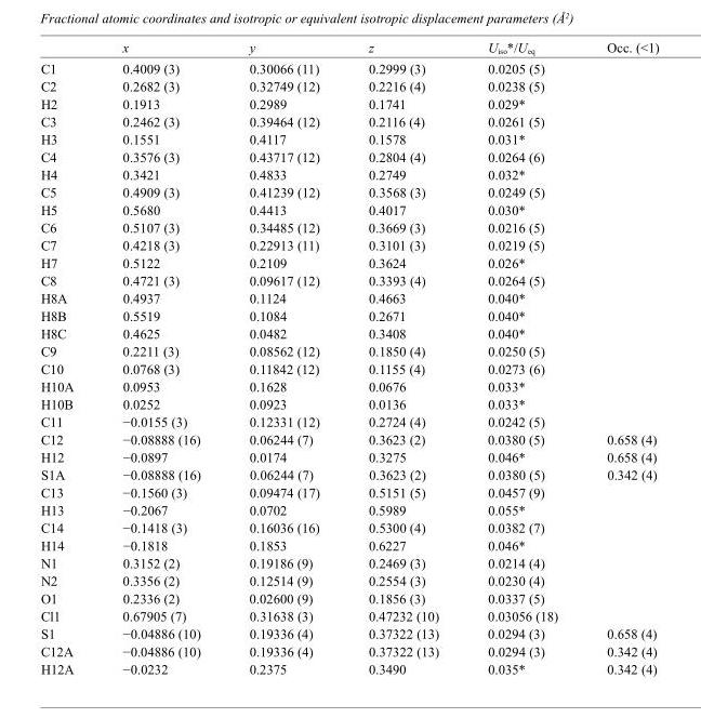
<table><thead><tr><td></td><td>x</td><td>y</td><td>z</td><td>U<sub>iso</sub>*/U<sub>eq</sub></td><td>Occ. (&lt;1)</td></tr></thead><tbody><tr><td>C1</td><td>0.4009 (3)</td><td>0.30066 (11)</td><td>0.2999 (3)</td><td>0.0205 (5)</td><td></td></tr><tr><td>C2</td><td>0.2682 (3)</td><td>0.32749 (12)</td><td>0.2216 (4)</td><td>0.0238 (5)</td><td></td></tr><tr><td>H2</td><td>0.1913</td><td>0.2989</td><td>0.1741</td><td>0.029*</td><td></td></tr><tr><td>C3</td><td>0.2462 (3)</td><td>0.39464 (12)</td><td>0.2116 (4)</td><td>0.0261 (5)</td><td></td></tr><tr><td>H3</td><td>0.1551</td><td>0.4117</td><td>0.1578</td><td>0.031*</td><td></td></tr><tr><td>C4</td><td>0.3576 (3)</td><td>0.43717 (12)</td><td>0.2804 (4)</td><td>0.0264 (6)</td><td></td></tr><tr><td>H4</td><td>0.3421</td><td>0.4833</td><td>0.2749</td><td>0.032*</td><td></td></tr><tr><td>C5</td><td>0.4909 (3)</td><td>0.41239 (12)</td><td>0.3568 (3)</td><td>0.0249 (5)</td><td></td></tr><tr><td>H5</td><td>0.5680</td><td>0.4413</td><td>0.4017</td><td>0.030*</td><td></td></tr><tr><td>C6</td><td>0.5107 (3)</td><td>0.34485 (12)</td><td>0.3669 (3)</td><td>0.0216 (5)</td><td></td></tr><tr><td>C7</td><td>0.4218 (3)</td><td>0.22913 (11)</td><td>0.3101 (3)</td><td>0.0219 (5)</td><td></td></tr><tr><td>H7</td><td>0.5122</td><td>0.2109</td><td>0.3624</td><td>0.026*</td><td></td></tr><tr><td>C8</td><td>0.4721 (3)</td><td>0.09617 (12)</td><td>0.3393 (4)</td><td>0.0264 (5)</td><td></td></tr><tr><td>H8A</td><td>0.4937</td><td>0.1124</td><td>0.4663</td><td>0.040*</td><td></td></tr><tr><td>H8B</td><td>0.5519</td><td>0.1084</td><td>0.2671</td><td>0.040*</td><td></td></tr><tr><td>H8C</td><td>0.4625</td><td>0.0482</td><td>0.3408</td><td>0.040*</td><td></td></tr><tr><td>C9</td><td>0.2211 (3)</td><td>0.08562 (12)</td><td>0.1850 (4)</td><td>0.0250 (5)</td><td></td></tr><tr><td>C10</td><td>0.0768 (3)</td><td>0.11842 (12)</td><td>0.1155 (4)</td><td>0.0273 (6)</td><td></td></tr><tr><td>H10A</td><td>0.0953</td><td>0.1628</td><td>0.0676</td><td>0.033*</td><td></td></tr><tr><td>H10B</td><td>0.0252</td><td>0.0923</td><td>0.0136</td><td>0.033*</td><td></td></tr><tr><td>C11</td><td>−0.0155 (3)</td><td>0.12331 (12)</td><td>0.2724 (4)</td><td>0.0242 (5)</td><td></td></tr><tr><td>C12</td><td>−0.08888 (16)</td><td>0.06244 (7)</td><td>0.3623 (2)</td><td>0.0380 (5)</td><td>0.658 (4)</td></tr><tr><td>H12</td><td>−0.0897</td><td>0.0174</td><td>0.3275</td><td>0.046*</td><td>0.658 (4)</td></tr><tr><td>S1A</td><td>−0.08888 (16)</td><td>0.06244 (7)</td><td>0.3623 (2)</td><td>0.0380 (5)</td><td>0.342 (4)</td></tr><tr><td>C13</td><td>−0.1560 (3)</td><td>0.09474 (17)</td><td>0.5151 (5)</td><td>0.0457 (9)</td><td></td></tr><tr><td>H13</td><td>−0.2067</td><td>0.0702</td><td>0.5989</td><td>0.055*</td><td></td></tr><tr><td>C14</td><td>−0.1418 (3)</td><td>0.16036 (16)</td><td>0.5300 (4)</td><td>0.0382 (7)</td><td></td></tr><tr><td>H14</td><td>−0.1818</td><td>0.1853</td><td>0.6227</td><td>0.046*</td><td></td></tr><tr><td>N1</td><td>0.3152 (2)</td><td>0.19186 (9)</td><td>0.2469 (3)</td><td>0.0214 (4)</td><td></td></tr><tr><td>N2</td><td>0.3356 (2)</td><td>0.12514 (9)</td><td>0.2554 (3)</td><td>0.0230 (4)</td><td></td></tr><tr><td>O1</td><td>0.2336 (2)</td><td>0.02600 (9)</td><td>0.1856 (3)</td><td>0.0337 (5)</td><td></td></tr><tr><td>Cl1</td><td>0.67905 (7)</td><td>0.31638 (3)</td><td>0.47232 (10)</td><td>0.03056 (18)</td><td></td></tr><tr><td>S1</td><td>−0.04886 (10)</td><td>0.19336 (4)</td><td>0.37322 (13)</td><td>0.0294 (3)</td><td>0.658 (4)</td></tr><tr><td>C12A</td><td>−0.04886 (10)</td><td>0.19336 (4)</td><td>0.37322 (13)</td><td>0.0294 (3)</td><td>0.342 (4)</td></tr><tr><td>H12A</td><td>−0.0232</td><td>0.2375</td><td>0.3490</td><td>0.035*</td><td>0.342 (4)</td></tr></tbody></table>